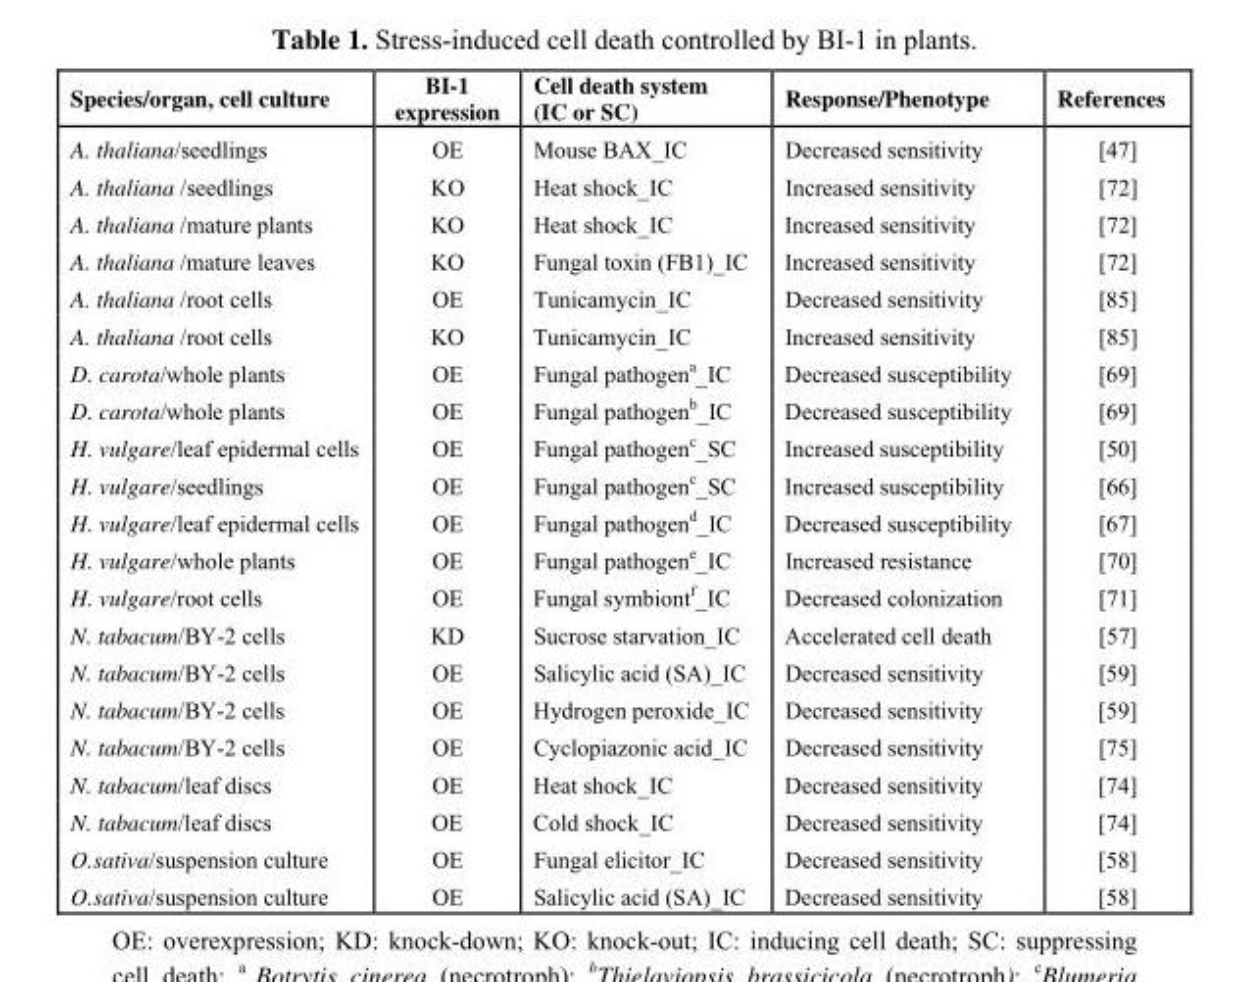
<table><thead><tr><td>Species/organ, cell culture</td><td>BI-1 expression</td><td>Cell death system (IC or SC)</td><td>Response/Phenotype</td><td>References</td></tr></thead><tbody><tr><td>A. thaliana/seedlings</td><td>OE</td><td>Mouse BAX_IC</td><td>Decreased sensitivity</td><td>[47]</td></tr><tr><td>A. thaliana /seedlings</td><td>KO</td><td>Heat shock_IC</td><td>Increased sensitivity</td><td>[72]</td></tr><tr><td>A. thaliana /mature plants</td><td>KO</td><td>Heat shock_IC</td><td>Increased sensitivity</td><td>[72]</td></tr><tr><td>A. thaliana /mature leaves</td><td>KO</td><td>Fungal toxin (FB1)_IC</td><td>Increased sensitivity</td><td>[72]</td></tr><tr><td>A. thaliana /root cells</td><td>OE</td><td>Tunicamycin_IC</td><td>Decreased sensitivity</td><td>[85]</td></tr><tr><td>A. thaliana /root cells</td><td>KO</td><td>Tunicamycin_IC</td><td>Increased sensitivity</td><td>[85]</td></tr><tr><td>D. carota/whole plants</td><td>OE</td><td>Fungal pathogen<sup>a</sup>_IC</td><td>Decreased susceptibility</td><td>[69]</td></tr><tr><td>D. carota/whole plants</td><td>OE</td><td>Fungal pathogen<sup>b</sup>_IC</td><td>Decreased susceptibility</td><td>[69]</td></tr><tr><td>H. vulgare/leaf epidermal cells</td><td>OE</td><td>Fungal pathogen<sup>c</sup>_SC</td><td>Increased susceptibility</td><td>[50]</td></tr><tr><td>H. vulgare/seedlings</td><td>OE</td><td>Fungal pathogen<sup>c</sup>_SC</td><td>Increased susceptibility</td><td>[66]</td></tr><tr><td>H. vulgare/leaf epidermal cells</td><td>OE</td><td>Fungal pathogen<sup>d</sup>_IC</td><td>Decreased susceptibility</td><td>[67]</td></tr><tr><td>H. vulgare/whole plants</td><td>OE</td><td>Fungal pathogen<sup>e</sup>_IC</td><td>Increased resistance</td><td>[70]</td></tr><tr><td>H. vulgare/root cells</td><td>OE</td><td>Fungal symbiont<sup>f</sup>_IC</td><td>Decreased colonization</td><td>[71]</td></tr><tr><td>N. tabacum/BY-2 cells</td><td>KD</td><td>Sucrose starvation_IC</td><td>Accelerated cell death</td><td>[57]</td></tr><tr><td>N. tabacum/BY-2 cells</td><td>OE</td><td>Salicylic acid (SA)_IC</td><td>Decreased sensitivity</td><td>[59]</td></tr><tr><td>N. tabacum/BY-2 cells</td><td>OE</td><td>Hydrogen peroxide_IC</td><td>Decreased sensitivity</td><td>[59]</td></tr><tr><td>N. tabacum/BY-2 cells</td><td>OE</td><td>Cyclopiazonic acid_IC</td><td>Decreased sensitivity</td><td>[75]</td></tr><tr><td>N. tabacum/leaf discs</td><td>OE</td><td>Heat shock_IC</td><td>Decreased sensitivity</td><td>[74]</td></tr><tr><td>N. tabacum/leaf discs</td><td>OE</td><td>Cold shock_IC</td><td>Decreased sensitivity</td><td>[74]</td></tr><tr><td>O.sativa/suspension culture</td><td>OE</td><td>Fungal elicitor_IC</td><td>Decreased sensitivity</td><td>[58]</td></tr><tr><td>O.sativa/suspension culture</td><td>OE</td><td>Salicylic acid (SA)_IC</td><td>Decreased sensitivity</td><td>[58]</td></tr></tbody></table>